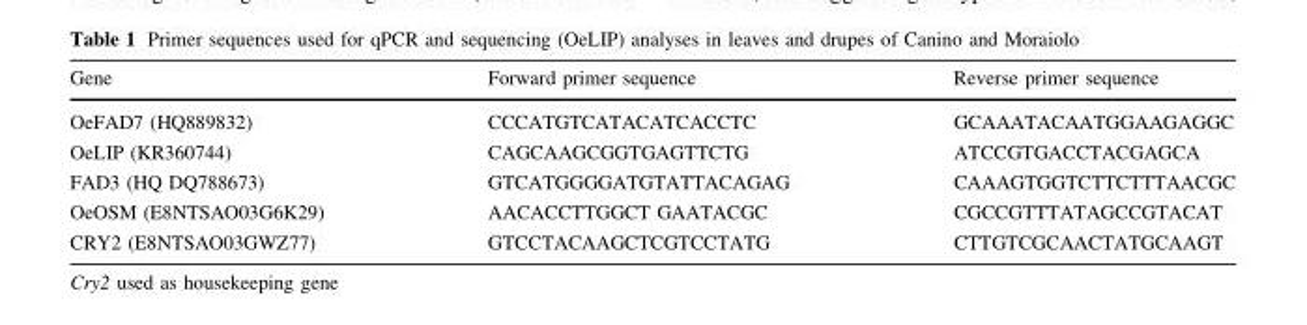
<table><thead><tr><td>Gene</td><td>Forward primer sequence</td><td>Reverse primer sequence</td></tr></thead><tbody><tr><td>OeFAD7 (HQ889832)</td><td>CCCATGTCATACATCACCTC</td><td>GCAAATACAATGGAAGAGGC</td></tr><tr><td>OeLIP (KR360744)</td><td>CAGCAAGCGGTGAGTTCTG</td><td>ATCCGTGACCTACGAGCA</td></tr><tr><td>FAD3 (HQ DQ788673)</td><td>GTCATGGGGATGTATTACAGAG</td><td>CAAAGTGGTCTTCTTTAACGC</td></tr><tr><td>OeOSM (E8NTSAO03G6K29)</td><td>AACACCTTGGCT GAATACGC</td><td>CGCCGTTTATAGCCGTACAT</td></tr><tr><td>CRY2 (E8NTSAO03GWZ77)</td><td>GTCCTACAAGCTCGTCCTATG</td><td>CTTGTCGCAACTATGCAAGT</td></tr></tbody></table>